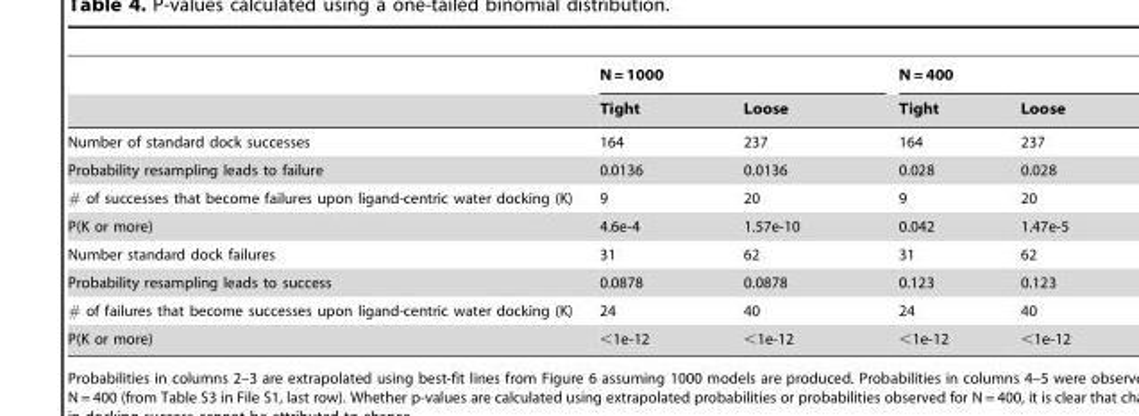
<table><thead><tr><td rowspan="2"></td><td colspan="2">N = 1000</td><td colspan="2">N = 400</td></tr><tr><td>Tight</td><td>Loose</td><td>Tight</td><td>Loose</td></tr></thead><tbody><tr><td>Number of standard dock successes</td><td>164</td><td>237</td><td>164</td><td>237</td></tr><tr><td>Probability resampling leads to failure</td><td>0.0136</td><td>0.0136</td><td>0.028</td><td>0.028</td></tr><tr><td># of successes that become failures upon ligand-centric water docking (K)</td><td>9</td><td>20</td><td>9</td><td>20</td></tr><tr><td>P(K or more)</td><td>4.6e-4</td><td>1.57e-10</td><td>0.042</td><td>1.47e-5</td></tr><tr><td>Number standard dock failures</td><td>31</td><td>62</td><td>31</td><td>62</td></tr><tr><td>Probability resampling leads to success</td><td>0.0878</td><td>0.0878</td><td>0.123</td><td>0.123</td></tr><tr><td># of failures that become successes upon ligand-centric water docking (K)</td><td>24</td><td>40</td><td>24</td><td>40</td></tr><tr><td>P(K or more)</td><td>&lt;1e-12</td><td>&lt;1e-12</td><td>&lt;1e-12</td><td>&lt;1e-12</td></tr></tbody></table>